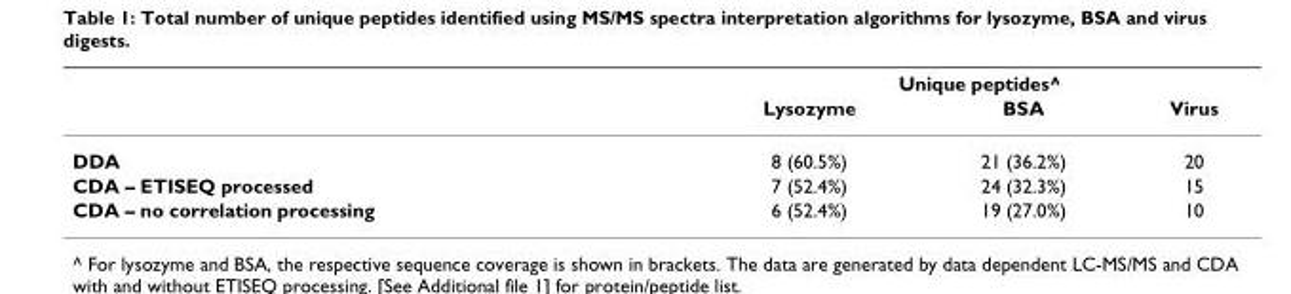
<table><thead><tr><td rowspan="2"></td><td colspan="3">Unique peptides^</td></tr><tr><td>Lysozyme</td><td>BSA</td><td>Virus</td></tr></thead><tbody><tr><td>DDA</td><td>8 (60.5%)</td><td>21 (36.2%)</td><td>20</td></tr><tr><td>CDA – ETISEQ processed</td><td>7 (52.4%)</td><td>24 (32.3%)</td><td>15</td></tr><tr><td>CDA – no correlation processing</td><td>6 (52.4%)</td><td>19 (27.0%)</td><td>10</td></tr></tbody></table>